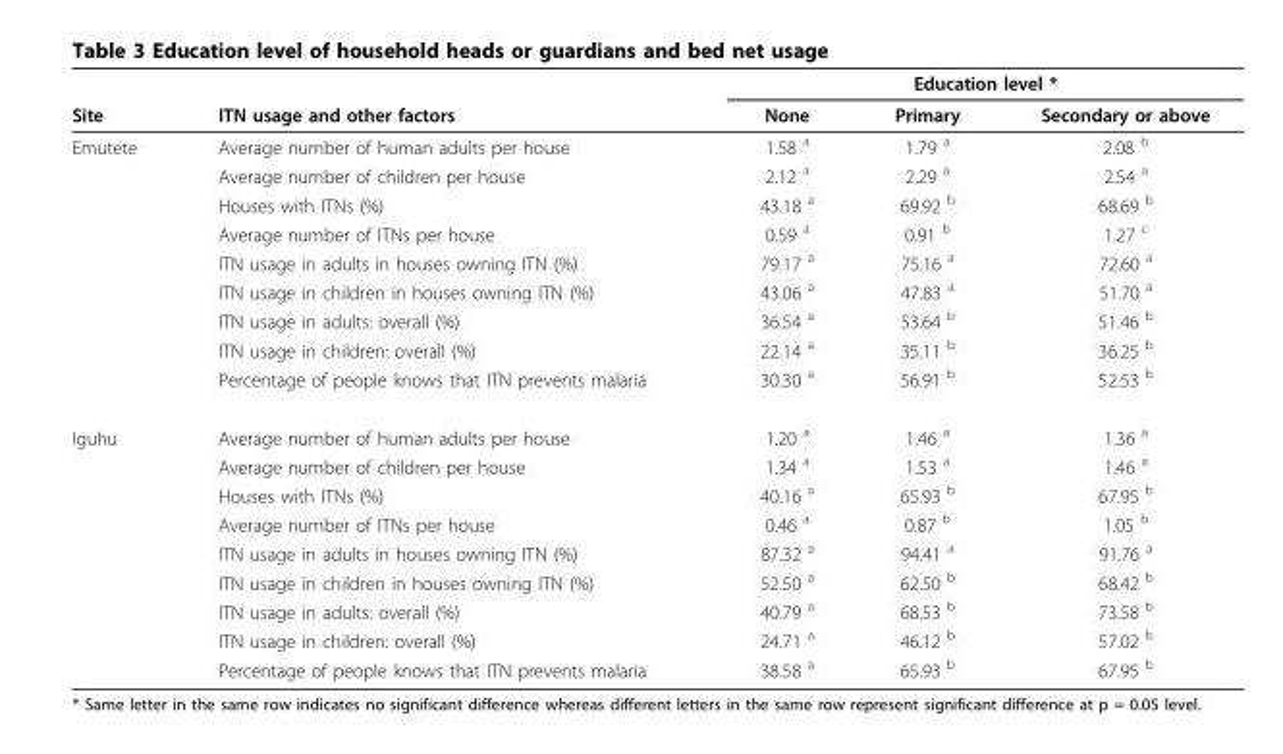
<table><thead><tr><td rowspan="2">Site</td><td rowspan="2">ITN usage and other factors</td><td colspan="3">Education level *</td></tr><tr><td>None</td><td>Primary</td><td>Secondary or above</td></tr></thead><tbody><tr><td rowspan="9">Emutete</td><td>Average number of human adults per house</td><td>1.58 <sup>a</sup></td><td>1.79 <sup>a</sup></td><td>2.08 <sup>b</sup></td></tr><tr><td>Average number of children per house</td><td>2.12 <sup>a</sup></td><td>2.29 <sup>a</sup></td><td>2.54 <sup>a</sup></td></tr><tr><td>Houses with ITNs (%)</td><td>43.18 <sup>a</sup></td><td>69.92 <sup>b</sup></td><td>68.69 <sup>b</sup></td></tr><tr><td>Average number of ITNs per house</td><td>0.59 <sup>a</sup></td><td>0.91 <sup>b</sup></td><td>1.27 <sup>c</sup></td></tr><tr><td>ITN usage in adults in houses owning ITN (%)</td><td>79.17 <sup>a</sup></td><td>75.16 <sup>a</sup></td><td>72.60 <sup>a</sup></td></tr><tr><td>ITN usage in children in houses owning ITN (%)</td><td>43.06 <sup>a</sup></td><td>47.83 <sup>a</sup></td><td>51.70 <sup>a</sup></td></tr><tr><td>ITN usage in adults: overall (%)</td><td>36.54 <sup>a</sup></td><td>53.64 <sup>b</sup></td><td>51.46 <sup>b</sup></td></tr><tr><td>ITN usage in children: overall (%)</td><td>22.14 <sup>a</sup></td><td>35.11 <sup>b</sup></td><td>36.25 <sup>b</sup></td></tr><tr><td>Percentage of people knows that ITN prevents malaria</td><td>30.30 <sup>a</sup></td><td>56.91 <sup>b</sup></td><td>52.53 <sup>b</sup></td></tr><tr><td rowspan="9">Iguhu</td><td>Average number of human adults per house</td><td>1.20 <sup>a</sup></td><td>1.46 <sup>a</sup></td><td>1.36 <sup>a</sup></td></tr><tr><td>Average number of children per house</td><td>1.34 <sup>a</sup></td><td>1.53 <sup>a</sup></td><td>1.46 <sup>a</sup></td></tr><tr><td>Houses with ITNs (%)</td><td>40.16 <sup>a</sup></td><td>65.93 <sup>b</sup></td><td>67.95 <sup>b</sup></td></tr><tr><td>Average number of ITNs per house</td><td>0.46 <sup>a</sup></td><td>0.87 <sup>b</sup></td><td>1.05 <sup>b</sup></td></tr><tr><td>ITN usage in adults in houses owning ITN (%)</td><td>87.32 <sup>a</sup></td><td>94.41 <sup>a</sup></td><td>91.76 <sup>a</sup></td></tr><tr><td>ITN usage in children in houses owning ITN (%)</td><td>52.50 <sup>a</sup></td><td>62.50 <sup>b</sup></td><td>68.42 <sup>b</sup></td></tr><tr><td>ITN usage in adults: overall (%)</td><td>40.79 <sup>a</sup></td><td>68.53 <sup>b</sup></td><td>73.58 <sup>b</sup></td></tr><tr><td>ITN usage in children: overall (%)</td><td>24.71 <sup>a</sup></td><td>46.12 <sup>b</sup></td><td>57.02 <sup>b</sup></td></tr><tr><td>Percentage of people knows that ITN prevents malaria</td><td>38.58 <sup>a</sup></td><td>65.93 <sup>b</sup></td><td>67.95 <sup>b</sup></td></tr></tbody></table>